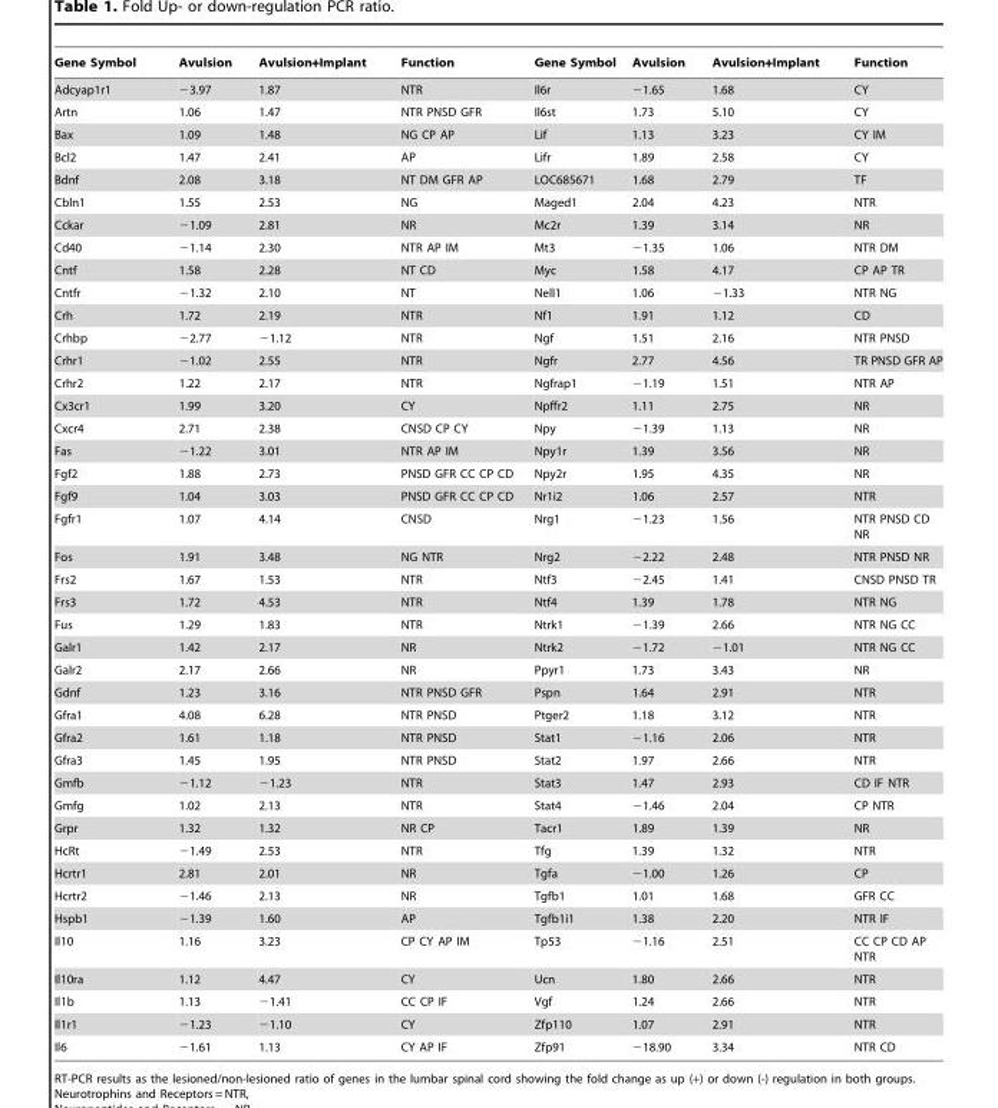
<table><thead><tr><td>Gene Symbol</td><td>Avulsion</td><td>Avulsion+Implant</td><td>Function</td><td>Gene Symbol</td><td>Avulsion</td><td>Avulsion+Implant</td><td>Function</td></tr></thead><tbody><tr><td>Adcyap1r1</td><td>−3.97</td><td>1.87</td><td>NTR</td><td>Il6r</td><td>−1.65</td><td>1.68</td><td>CY</td></tr><tr><td>Artn</td><td>1.06</td><td>1.47</td><td>NTR PNSD GFR</td><td>Il6st</td><td>1.73</td><td>5.10</td><td>CY</td></tr><tr><td>Bax</td><td>1.09</td><td>1.48</td><td>NG CP AP</td><td>Lif</td><td>1.13</td><td>3.23</td><td>CY IM</td></tr><tr><td>Bcl2</td><td>1.47</td><td>2.41</td><td>AP</td><td>Lifr</td><td>1.89</td><td>2.58</td><td>CY</td></tr><tr><td>Bdnf</td><td>2.08</td><td>3.18</td><td>NT DM GFR AP</td><td>LOC685671</td><td>1.68</td><td>2.79</td><td>TF</td></tr><tr><td>Cbln1</td><td>1.55</td><td>2.53</td><td>NG</td><td>Maged1</td><td>2.04</td><td>4.23</td><td>NTR</td></tr><tr><td>Cckar</td><td>−1.09</td><td>2.81</td><td>NR</td><td>Mc2r</td><td>1.39</td><td>3.14</td><td>NR</td></tr><tr><td>Cd40</td><td>−1.14</td><td>2.30</td><td>NTR AP IM</td><td>Mt3</td><td>−1.35</td><td>1.06</td><td>NTR DM</td></tr><tr><td>Cntf</td><td>1.58</td><td>2.28</td><td>NT CD</td><td>Myc</td><td>1.58</td><td>4.17</td><td>CP AP TR</td></tr><tr><td>Cntfr</td><td>−1.32</td><td>2.10</td><td>NT</td><td>Nell1</td><td>1.06</td><td>−1.33</td><td>NTR NG</td></tr><tr><td>Crh</td><td>1.72</td><td>2.19</td><td>NTR</td><td>Nf1</td><td>1.91</td><td>1.12</td><td>CD</td></tr><tr><td>Crhbp</td><td>−2.77</td><td>−1.12</td><td>NTR</td><td>Ngf</td><td>1.51</td><td>2.16</td><td>NTR PNSD</td></tr><tr><td>Crhr1</td><td>−1.02</td><td>2.55</td><td>NTR</td><td>Ngfr</td><td>2.77</td><td>4.56</td><td>TR PNSD GFR AP</td></tr><tr><td>Crhr2</td><td>1.22</td><td>2.17</td><td>NTR</td><td>Ngfrap1</td><td>−1.19</td><td>1.51</td><td>NTR AP</td></tr><tr><td>Cx3cr1</td><td>1.99</td><td>3.20</td><td>CY</td><td>Npffr2</td><td>1.11</td><td>2.75</td><td>NR</td></tr><tr><td>Cxcr4</td><td>2.71</td><td>2.38</td><td>CNSD CP CY</td><td>Npy</td><td>−1.39</td><td>1.13</td><td>NR</td></tr><tr><td>Fas</td><td>−1.22</td><td>3.01</td><td>NTR AP IM</td><td>Npy1r</td><td>1.39</td><td>3.56</td><td>NR</td></tr><tr><td>Fgf2</td><td>1.88</td><td>2.73</td><td>PNSD GFR CC CP CD</td><td>Npy2r</td><td>1.95</td><td>4.35</td><td>NR</td></tr><tr><td>Fgf9</td><td>1.04</td><td>3.03</td><td>PNSD GFR CC CP CD</td><td>Nr1i2</td><td>1.06</td><td>2.57</td><td>NTR</td></tr><tr><td>Fgfr1</td><td>1.07</td><td>4.14</td><td>CNSD</td><td>Nrg1</td><td>−1.23</td><td>1.56</td><td>NTR PNSD CD NR</td></tr><tr><td>Fos</td><td>1.91</td><td>3.48</td><td>NG NTR</td><td>Nrg2</td><td>−2.22</td><td>2.48</td><td>NTR PNSD NR</td></tr><tr><td>Frs2</td><td>1.67</td><td>1.53</td><td>NTR</td><td>Ntf3</td><td>−2.45</td><td>1.41</td><td>CNSD PNSD TR</td></tr><tr><td>Frs3</td><td>1.72</td><td>4.53</td><td>NTR</td><td>Ntf4</td><td>1.39</td><td>1.78</td><td>NTR NG</td></tr><tr><td>Fus</td><td>1.29</td><td>1.83</td><td>NTR</td><td>Ntrk1</td><td>−1.39</td><td>2.66</td><td>NTR NG CC</td></tr><tr><td>Galr1</td><td>1.42</td><td>2.17</td><td>NR</td><td>Ntrk2</td><td>−1.72</td><td>−1.01</td><td>NTR NG CC</td></tr><tr><td>Galr2</td><td>2.17</td><td>2.66</td><td>NR</td><td>Ppyr1</td><td>1.73</td><td>3.43</td><td>NR</td></tr><tr><td>Gdnf</td><td>1.23</td><td>3.16</td><td>NTR PNSD GFR</td><td>Pspn</td><td>1.64</td><td>2.91</td><td>NTR</td></tr><tr><td>Gfra1</td><td>4.08</td><td>6.28</td><td>NTR PNSD</td><td>Ptger2</td><td>1.18</td><td>3.12</td><td>NTR</td></tr><tr><td>Gfra2</td><td>1.61</td><td>1.18</td><td>NTR PNSD</td><td>Stat1</td><td>−1.16</td><td>2.06</td><td>NTR</td></tr><tr><td>Gfra3</td><td>1.45</td><td>1.95</td><td>NTR PNSD</td><td>Stat2</td><td>1.97</td><td>2.66</td><td>NTR</td></tr><tr><td>Gmfb</td><td>−1.12</td><td>−1.23</td><td>NTR</td><td>Stat3</td><td>1.47</td><td>2.93</td><td>CD IF NTR</td></tr><tr><td>Gmfg</td><td>1.02</td><td>2.13</td><td>NTR</td><td>Stat4</td><td>−1.46</td><td>2.04</td><td>CP NTR</td></tr><tr><td>Grpr</td><td>1.32</td><td>1.32</td><td>NR CP</td><td>Tacr1</td><td>1.89</td><td>1.39</td><td>NR</td></tr><tr><td>HcRt</td><td>−1.49</td><td>2.53</td><td>NTR</td><td>Tfg</td><td>1.39</td><td>1.32</td><td>NTR</td></tr><tr><td>Hcrtr1</td><td>2.81</td><td>2.01</td><td>NR</td><td>Tgfa</td><td>−1.00</td><td>1.26</td><td>CP</td></tr><tr><td>Hcrtr2</td><td>−1.46</td><td>2.13</td><td>NR</td><td>Tgfb1</td><td>1.01</td><td>1.68</td><td>GFR CC</td></tr><tr><td>Hspb1</td><td>−1.39</td><td>1.60</td><td>AP</td><td>Tgfb1i1</td><td>1.38</td><td>2.20</td><td>NTR IF</td></tr><tr><td>Il10</td><td>1.16</td><td>3.23</td><td>CP CY AP IM</td><td>Tp53</td><td>−1.16</td><td>2.51</td><td>CC CP CD AP NTR</td></tr><tr><td>Il10ra</td><td>1.12</td><td>4.47</td><td>CY</td><td>Ucn</td><td>1.80</td><td>2.66</td><td>NTR</td></tr><tr><td>Il1b</td><td>1.13</td><td>−1.41</td><td>CC CP IF</td><td>Vgf</td><td>1.24</td><td>2.66</td><td>NTR</td></tr><tr><td>Il1r1</td><td>−1.23</td><td>−1.10</td><td>CY</td><td>Zfp110</td><td>1.07</td><td>2.91</td><td>NTR</td></tr><tr><td>Il6</td><td>−1.61</td><td>1.13</td><td>CY AP IF</td><td>Zfp91</td><td>−18.90</td><td>3.34</td><td>NTR CD</td></tr></tbody></table>